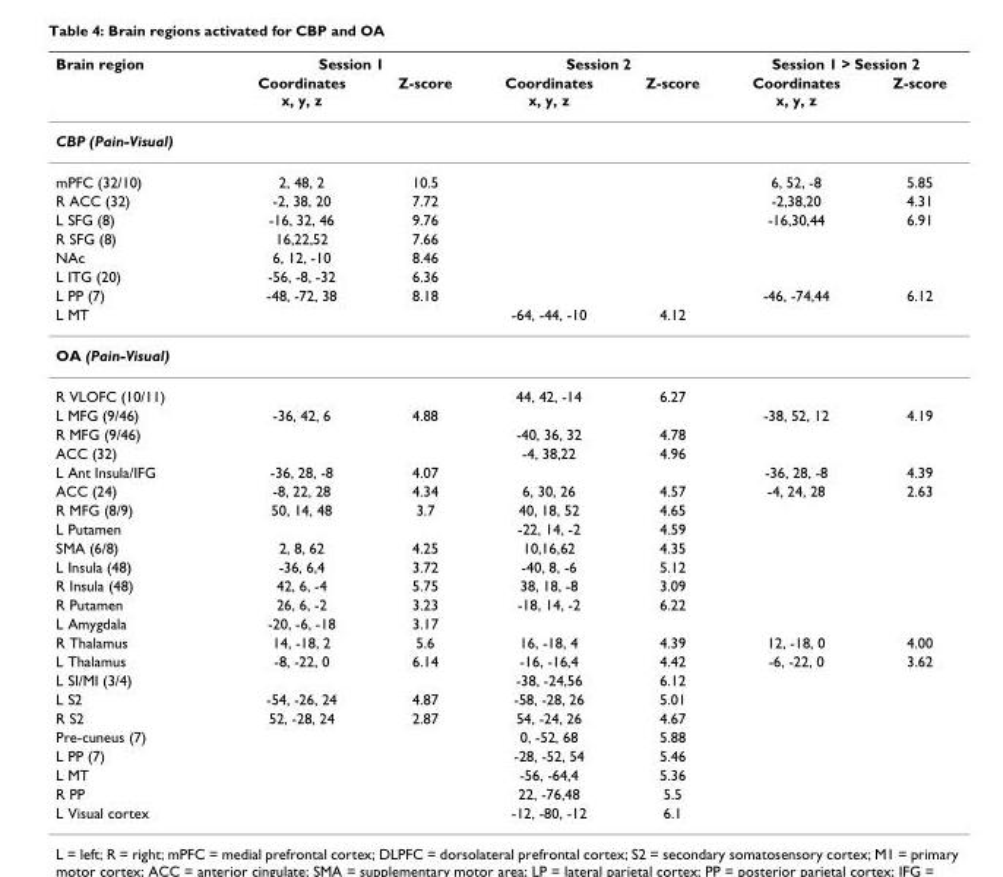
<table><thead><tr><td rowspan="2">Brain region</td><td colspan="2">Session 1</td><td colspan="2">Session 2</td><td colspan="2">Session 1 &gt; Session 2</td></tr><tr><td>Coordinates x, y, z</td><td>Z-score</td><td>Coordinates x, y, z</td><td>Z-score</td><td>Coordinates x, y, z</td><td>Z-score</td></tr></thead><tbody><tr><td colspan="7">CBP (Pain-Visual)</td></tr><tr><td>mPFC (32/10)</td><td>2, 48, 2</td><td>10.5</td><td></td><td></td><td>6, 52, -8</td><td>5.85</td></tr><tr><td>R ACC (32)</td><td>-2, 38, 20</td><td>7.72</td><td></td><td></td><td>-2,38,20</td><td>4.31</td></tr><tr><td>L SFG (8)</td><td>-16, 32, 46</td><td>9.76</td><td></td><td></td><td>-16,30,44</td><td>6.91</td></tr><tr><td>R SFG (8)</td><td>16,22,52</td><td>7.66</td><td></td><td></td><td></td><td></td></tr><tr><td>NAc</td><td>6, 12, -10</td><td>8.46</td><td></td><td></td><td></td><td></td></tr><tr><td>L ITG (20)</td><td>-56, -8, -32</td><td>6.36</td><td></td><td></td><td></td><td></td></tr><tr><td>L PP (7)</td><td>-48, -72, 38</td><td>8.18</td><td></td><td></td><td>-46, -74,44</td><td>6.12</td></tr><tr><td>L MT</td><td></td><td></td><td>-64, -44, -10</td><td>4.12</td><td></td><td></td></tr><tr><td colspan="7">OA (Pain-Visual)</td></tr><tr><td>R VLOFC (10/11)</td><td></td><td></td><td>44, 42, -14</td><td>6.27</td><td></td><td></td></tr><tr><td>L MFG (9/46)</td><td>-36, 42, 6</td><td>4.88</td><td></td><td></td><td>-38, 52, 12</td><td>4.19</td></tr><tr><td>R MFG (9/46)</td><td></td><td></td><td>-40, 36, 32</td><td>4.78</td><td></td><td></td></tr><tr><td>ACC (32)</td><td></td><td></td><td>-4, 38,22</td><td>4.96</td><td></td><td></td></tr><tr><td>L Ant Insula/IFG</td><td>-36, 28, -8</td><td>4.07</td><td></td><td></td><td>-36, 28, -8</td><td>4.39</td></tr><tr><td>ACC (24)</td><td>-8, 22, 28</td><td>4.34</td><td>6, 30, 26</td><td>4.57</td><td>-4, 24, 28</td><td>2.63</td></tr><tr><td>R MFG (8/9)</td><td>50, 14, 48</td><td>3.7</td><td>40, 18, 52</td><td>4.65</td><td></td><td></td></tr><tr><td>L Putamen</td><td></td><td></td><td>-22, 14, -2</td><td>4.59</td><td></td><td></td></tr><tr><td>SMA (6/8)</td><td>2, 8, 62</td><td>4.25</td><td>10,16,62</td><td>4.35</td><td></td><td></td></tr><tr><td>L Insula (48)</td><td>-36, 6,4</td><td>3.72</td><td>-40, 8, -6</td><td>5.12</td><td></td><td></td></tr><tr><td>R Insula (48)</td><td>42, 6, -4</td><td>5.75</td><td>38, 18, -8</td><td>3.09</td><td></td><td></td></tr><tr><td>R Putamen</td><td>26, 6, -2</td><td>3.23</td><td>-18, 14, -2</td><td>6.22</td><td></td><td></td></tr><tr><td>L Amygdala</td><td>-20, -6, -18</td><td>3.17</td><td></td><td></td><td></td><td></td></tr><tr><td>R Thalamus</td><td>14, -18, 2</td><td>5.6</td><td>16, -18, 4</td><td>4.39</td><td>12, -18, 0</td><td>4.00</td></tr><tr><td>L Thalamus</td><td>-8, -22, 0</td><td>6.14</td><td>-16, -16,4</td><td>4.42</td><td>-6, -22, 0</td><td>3.62</td></tr><tr><td>L SI/MI (3/4)</td><td></td><td></td><td>-38, -24,56</td><td>6.12</td><td></td><td></td></tr><tr><td>L S2</td><td>-54, -26, 24</td><td>4.87</td><td>-58, -28, 26</td><td>5.01</td><td></td><td></td></tr><tr><td>R S2</td><td>52, -28, 24</td><td>2.87</td><td>54, -24, 26</td><td>4.67</td><td></td><td></td></tr><tr><td>Pre-cuneus (7)</td><td></td><td></td><td>0, -52, 68</td><td>5.88</td><td></td><td></td></tr><tr><td>L PP (7)</td><td></td><td></td><td>-28, -52, 54</td><td>5.46</td><td></td><td></td></tr><tr><td>L MT</td><td></td><td></td><td>-56, -64,4</td><td>5.36</td><td></td><td></td></tr><tr><td>R PP</td><td></td><td></td><td>22, -76,48</td><td>5.5</td><td></td><td></td></tr><tr><td>L Visual cortex</td><td></td><td></td><td>-12, -80, -12</td><td>6.1</td><td></td><td></td></tr></tbody></table>